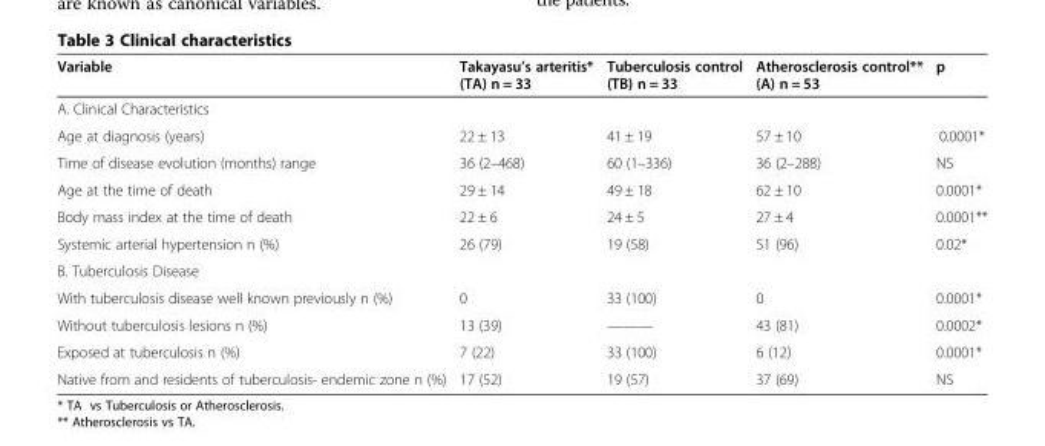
<table><thead><tr><td>Variable</td><td>Takayasu’s arteritis* (TA) n = 33</td><td>Tuberculosis control (TB) n = 33</td><td>Atherosclerosis control** (A) n = 53</td><td>p</td></tr></thead><tbody><tr><td colspan="5">A. Clinical Characteristics</td></tr><tr><td>Age at diagnosis (years)</td><td>22 ± 13</td><td>41 ± 19</td><td>57 ± 10</td><td>0.0001*</td></tr><tr><td>Time of disease evolution (months) range</td><td>36 (2–468)</td><td>60 (1–336)</td><td>36 (2–288)</td><td>NS</td></tr><tr><td>Age at the time of death</td><td>29 ± 14</td><td>49 ± 18</td><td>62 ± 10</td><td>0.0001*</td></tr><tr><td>Body mass index at the time of death</td><td>22 ± 6</td><td>24 ± 5</td><td>27 ± 4</td><td>0.0001**</td></tr><tr><td>Systemic arterial hypertension n (%)</td><td>26 (79)</td><td>19 (58)</td><td>51 (96)</td><td>0.02*</td></tr><tr><td colspan="5">B. Tuberculosis Disease</td></tr><tr><td>With tuberculosis disease well known previously n (%)</td><td>0</td><td>33 (100)</td><td>0</td><td>0.0001*</td></tr><tr><td>Without tuberculosis lesions n (%)</td><td>13 (39)</td><td>———</td><td>43 (81)</td><td>0.0002*</td></tr><tr><td>Exposed at tuberculosis n (%)</td><td>7 (22)</td><td>33 (100)</td><td>6 (12)</td><td>0.0001*</td></tr><tr><td>Native from and residents of tuberculosis- endemic zone n (%)</td><td>17 (52)</td><td>19 (57)</td><td>37 (69)</td><td>NS</td></tr></tbody></table>